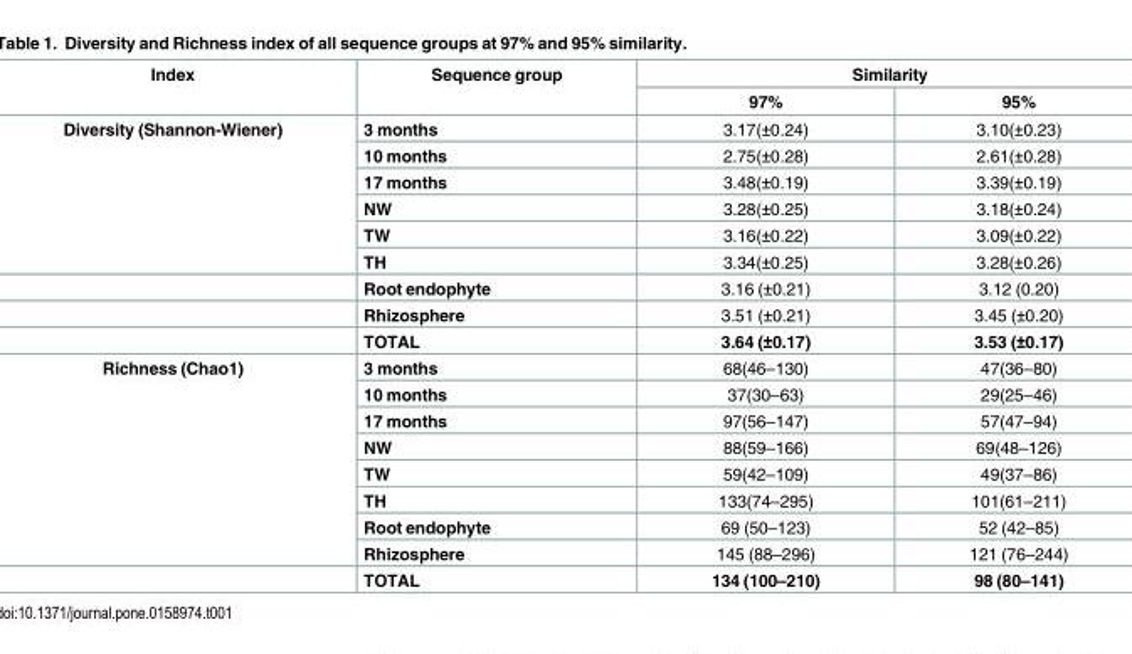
<table><thead><tr><td rowspan="2">Index</td><td rowspan="2">Sequence group</td><td colspan="2">Similarity</td></tr><tr><td>97%</td><td>95%</td></tr></thead><tbody><tr><td rowspan="9">Diversity (Shannon-Wiener)</td><td>3 months</td><td>3.17(±0.24)</td><td>3.10(±0.23)</td></tr><tr><td>10 months</td><td>2.75(±0.28)</td><td>2.61(±0.28)</td></tr><tr><td>17 months</td><td>3.48(±0.19)</td><td>3.39(±0.19)</td></tr><tr><td>NW</td><td>3.28(±0.25)</td><td>3.18(±0.24)</td></tr><tr><td>TW</td><td>3.16(±0.22)</td><td>3.09(±0.22)</td></tr><tr><td>TH</td><td>3.34(±0.25)</td><td>3.28(±0.26)</td></tr><tr><td>Root endophyte</td><td>3.16 (±0.21)</td><td>3.12 (0.20)</td></tr><tr><td>Rhizosphere</td><td>3.51 (±0.21)</td><td>3.45 (±0.20)</td></tr><tr><td>TOTAL</td><td>3.64 (±0.17)</td><td>3.53 (±0.17)</td></tr><tr><td rowspan="9">Richness (Chao1)</td><td>3 months</td><td>68(46–130)</td><td>47(36–80)</td></tr><tr><td>10 months</td><td>37(30–63)</td><td>29(25–46)</td></tr><tr><td>17 months</td><td>97(56–147)</td><td>57(47–94)</td></tr><tr><td>NW</td><td>88(59–166)</td><td>69(48–126)</td></tr><tr><td>TW</td><td>59(42–109)</td><td>49(37–86)</td></tr><tr><td>TH</td><td>133(74–295)</td><td>101(61–211)</td></tr><tr><td>Root endophyte</td><td>69 (50–123)</td><td>52 (42–85)</td></tr><tr><td>Rhizosphere</td><td>145 (88–296)</td><td>121 (76–244)</td></tr><tr><td>TOTAL</td><td>134 (100–210)</td><td>98 (80–141)</td></tr></tbody></table>